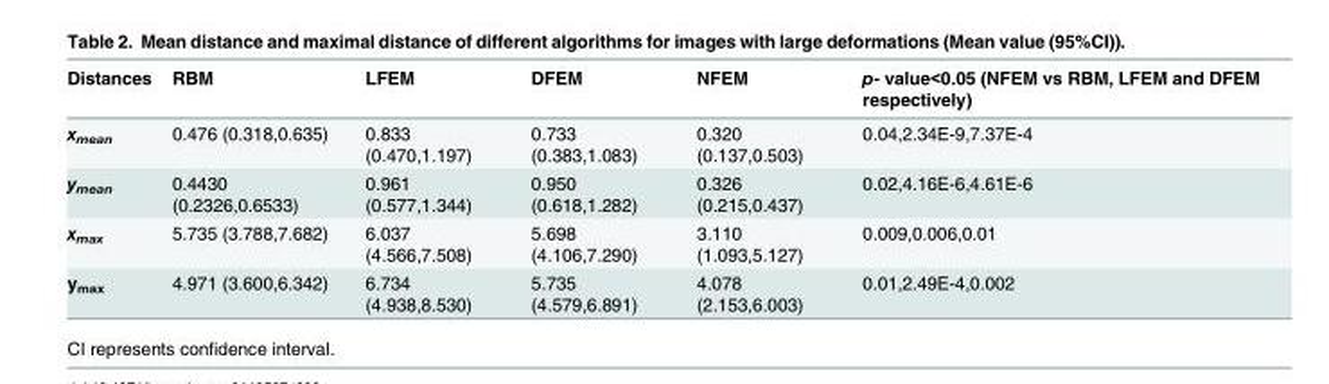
<table><thead><tr><td>Distances</td><td>RBM</td><td>LFEM</td><td>DFEM</td><td>NFEM</td><td>p- value&lt;0.05 (NFEM vs RBM, LFEM and DFEM respectively)</td></tr></thead><tbody><tr><td>x<sub>mean</sub></td><td>0.476 (0.318,0.635)</td><td>0.833 (0.470,1.197)</td><td>0.733 (0.383,1.083)</td><td>0.320 (0.137,0.503)</td><td>0.04,2.34E-9,7.37E-4</td></tr><tr><td>y<sub>mean</sub></td><td>0.4430 (0.2326,0.6533)</td><td>0.961 (0.577,1.344)</td><td>0.950 (0.618,1.282)</td><td>0.326 (0.215,0.437)</td><td>0.02,4.16E-6,4.61E-6</td></tr><tr><td>x<sub>max</sub></td><td>5.735 (3.788,7.682)</td><td>6.037 (4.566,7.508)</td><td>5.698 (4.106,7.290)</td><td>3.110 (1.093,5.127)</td><td>0.009,0.006,0.01</td></tr><tr><td>y<sub>max</sub></td><td>4.971 (3.600,6.342)</td><td>6.734 (4.938,8.530)</td><td>5.735 (4.579,6.891)</td><td>4.078 (2.153,6.003)</td><td>0.01,2.49E-4,0.002</td></tr></tbody></table>